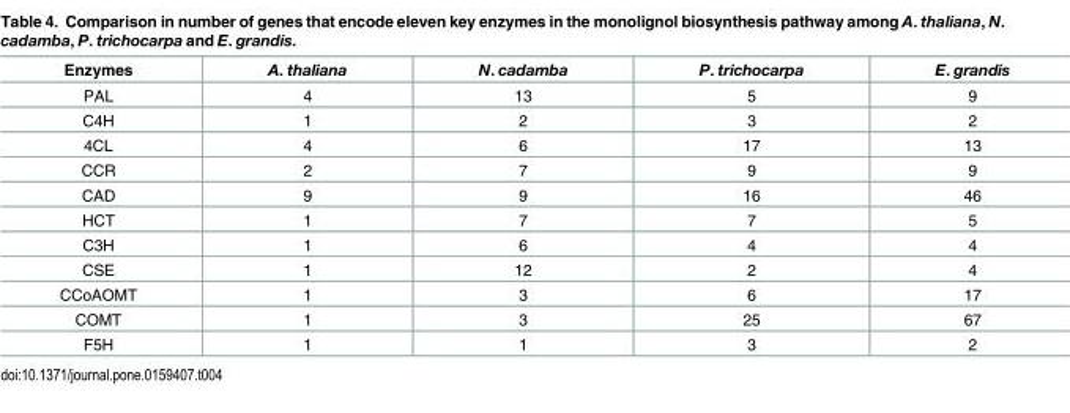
<table><thead><tr><td>Enzymes</td><td>A. thaliana</td><td>N. cadamba</td><td>P. trichocarpa</td><td>E. grandis</td></tr></thead><tbody><tr><td>PAL</td><td>4</td><td>13</td><td>5</td><td>9</td></tr><tr><td>C4H</td><td>1</td><td>2</td><td>3</td><td>2</td></tr><tr><td>4CL</td><td>4</td><td>6</td><td>17</td><td>13</td></tr><tr><td>CCR</td><td>2</td><td>7</td><td>9</td><td>9</td></tr><tr><td>CAD</td><td>9</td><td>9</td><td>16</td><td>46</td></tr><tr><td>HCT</td><td>1</td><td>7</td><td>7</td><td>5</td></tr><tr><td>C3H</td><td>1</td><td>6</td><td>4</td><td>4</td></tr><tr><td>CSE</td><td>1</td><td>12</td><td>2</td><td>4</td></tr><tr><td>CCoAOMT</td><td>1</td><td>3</td><td>6</td><td>17</td></tr><tr><td>COMT</td><td>1</td><td>3</td><td>25</td><td>67</td></tr><tr><td>F5H</td><td>1</td><td>1</td><td>3</td><td>2</td></tr></tbody></table>